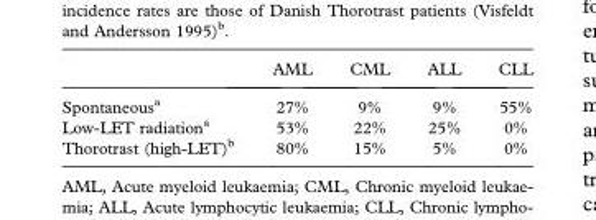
<table><thead><tr><td></td><td>AML</td><td>CML</td><td>ALL</td><td>CLL</td></tr></thead><tbody><tr><td>Spontaneous<sup>a</sup></td><td>27%</td><td>9%</td><td>9%</td><td>55%</td></tr><tr><td>Low-LET radiation<sup>a</sup></td><td>53%</td><td>22%</td><td>25%</td><td>0%</td></tr><tr><td>Thorotrast (high-LET)<sup>b</sup></td><td>80%</td><td>15%</td><td>5%</td><td>0%</td></tr></tbody></table>